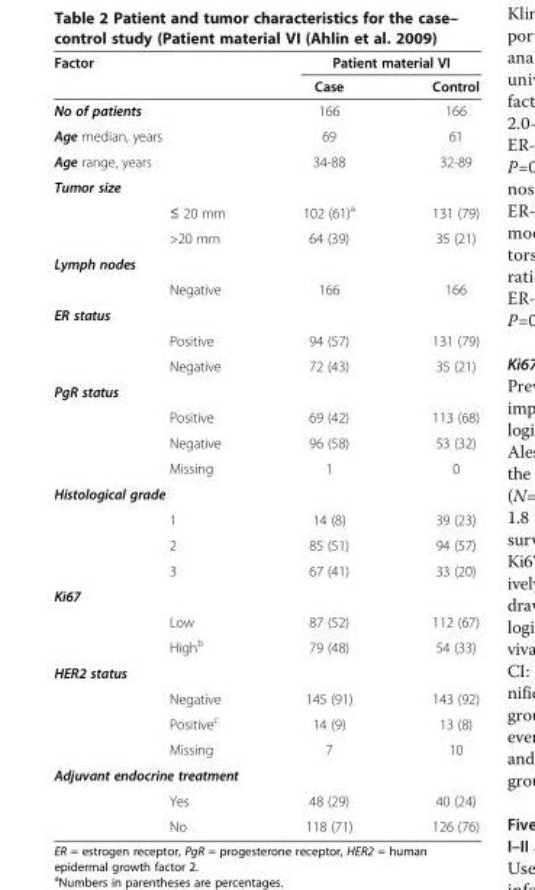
<table><thead><tr><td rowspan="2">Factor</td><td rowspan="2"></td><td colspan="2">Patient material VI</td></tr><tr><td>Case</td><td>Control</td></tr></thead><tbody><tr><td colspan="2">No of patients</td><td>166</td><td>166</td></tr><tr><td colspan="2">Age median, years</td><td>69</td><td>61</td></tr><tr><td colspan="2">Age range, years</td><td>34-88</td><td>32-89</td></tr><tr><td colspan="4">Tumor size</td></tr><tr><td></td><td>≤ 20 mm</td><td>102 (61)<sup>a</sup></td><td>131 (79)</td></tr><tr><td></td><td>&gt;20 mm</td><td>64 (39)</td><td>35 (21)</td></tr><tr><td colspan="4">Lymph nodes</td></tr><tr><td></td><td>Negative</td><td>166</td><td>166</td></tr><tr><td colspan="4">ER status</td></tr><tr><td></td><td>Positive</td><td>94 (57)</td><td>131 (79)</td></tr><tr><td></td><td>Negative</td><td>72 (43)</td><td>35 (21)</td></tr><tr><td colspan="4">PgR status</td></tr><tr><td></td><td>Positive</td><td>69 (42)</td><td>113 (68)</td></tr><tr><td></td><td>Negative</td><td>96 (58)</td><td>53 (32)</td></tr><tr><td></td><td>Missing</td><td>1</td><td>0</td></tr><tr><td colspan="4">Histological grade</td></tr><tr><td></td><td>1</td><td>14 (8)</td><td>39 (23)</td></tr><tr><td></td><td>2</td><td>85 (51)</td><td>94 (57)</td></tr><tr><td></td><td>3</td><td>67 (41)</td><td>33 (20)</td></tr><tr><td colspan="4">Ki67</td></tr><tr><td></td><td>Low</td><td>87 (52)</td><td>112 (67)</td></tr><tr><td></td><td>High<sup>b</sup></td><td>79 (48)</td><td>54 (33)</td></tr><tr><td colspan="4">HER2 status</td></tr><tr><td></td><td>Negative</td><td>145 (91)</td><td>143 (92)</td></tr><tr><td></td><td>Positive<sup>c</sup></td><td>14 (9)</td><td>13 (8)</td></tr><tr><td></td><td>Missing</td><td>7</td><td>10</td></tr><tr><td colspan="4">Adjuvant endocrine treatment</td></tr><tr><td></td><td>Yes</td><td>48 (29)</td><td>40 (24)</td></tr><tr><td></td><td>No</td><td>118 (71)</td><td>126 (76)</td></tr></tbody></table>